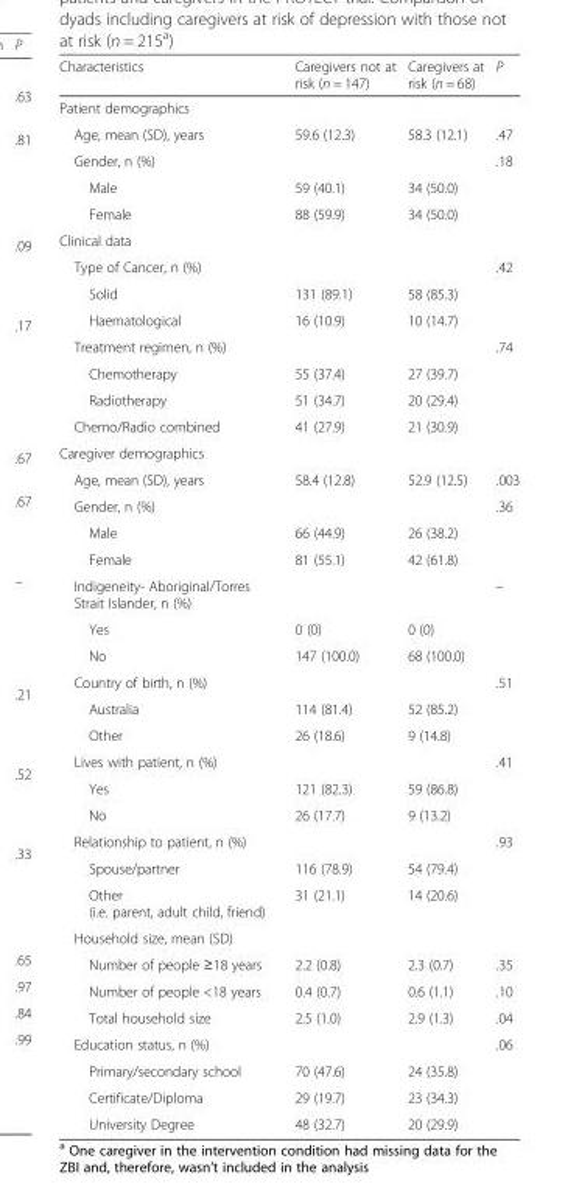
<table><thead><tr><td>Characteristics</td><td>Caregivers not at risk (n = 147)</td><td>Caregivers at risk (n = 68)</td><td>P</td></tr></thead><tbody><tr><td colspan="4">Patient demographics</td></tr><tr><td>Age, mean (SD), years</td><td>59.6 (12.3)</td><td>58.3 (12.1)</td><td>.47</td></tr><tr><td>Gender, n (%)</td><td></td><td></td><td>.18</td></tr><tr><td>Male</td><td>59 (40.1)</td><td>34 (50.0)</td><td></td></tr><tr><td>Female</td><td>88 (59.9)</td><td>34 (50.0)</td><td></td></tr><tr><td colspan="4">Clinical data</td></tr><tr><td>Type of Cancer, n (%)</td><td></td><td></td><td>.42</td></tr><tr><td>Solid</td><td>131 (89.1)</td><td>58 (85.3)</td><td></td></tr><tr><td>Haematological</td><td>16 (10.9)</td><td>10 (14.7)</td><td></td></tr><tr><td>Treatment regimen, n (%)</td><td></td><td></td><td>.74</td></tr><tr><td>Chemotherapy</td><td>55 (37.4)</td><td>27 (39.7)</td><td></td></tr><tr><td>Radiotherapy</td><td>51 (34.7)</td><td>20 (29.4)</td><td></td></tr><tr><td>Chemo/Radio combined</td><td>41 (27.9)</td><td>21 (30.9)</td><td></td></tr><tr><td colspan="4">Caregiver demographics</td></tr><tr><td>Age, mean (SD), years</td><td>58.4 (12.8)</td><td>52.9 (12.5)</td><td>.003</td></tr><tr><td>Gender, n (%)</td><td></td><td></td><td>.36</td></tr><tr><td>Male</td><td>66 (44.9)</td><td>26 (38.2)</td><td></td></tr><tr><td>Female</td><td>81 (55.1)</td><td>42 (61.8)</td><td></td></tr><tr><td>Indigeneity- Aboriginal/Torres Strait Islander, n (%)</td><td></td><td></td><td>–</td></tr><tr><td>Yes</td><td>0 (0)</td><td>0 (0)</td><td></td></tr><tr><td>No</td><td>147 (100.0)</td><td>68 (100.0)</td><td></td></tr><tr><td>Country of birth, n (%)</td><td></td><td></td><td>.51</td></tr><tr><td>Australia</td><td>114 (81.4)</td><td>52 (85.2)</td><td></td></tr><tr><td>Other</td><td>26 (18.6)</td><td>9 (14.8)</td><td></td></tr><tr><td>Lives with patient, n (%)</td><td></td><td></td><td>.41</td></tr><tr><td>Yes</td><td>121 (82.3)</td><td>59 (86.8)</td><td></td></tr><tr><td>No</td><td>26 (17.7)</td><td>9 (13.2)</td><td></td></tr><tr><td>Relationship to patient, n (%)</td><td></td><td></td><td>.93</td></tr><tr><td>Spouse/partner</td><td>116 (78.9)</td><td>54 (79.4)</td><td></td></tr><tr><td>Other (i.e. parent, adult child, friend)</td><td>31 (21.1)</td><td>14 (20.6)</td><td></td></tr><tr><td colspan="4">Household size, mean (SD)</td></tr><tr><td>Number of people ≥18 years</td><td>2.2 (0.8)</td><td>2.3 (0.7)</td><td>.35</td></tr><tr><td>Number of people &lt;18 years</td><td>0.4 (0.7)</td><td>0.6 (1.1)</td><td>.10</td></tr><tr><td>Total household size</td><td>2.5 (1.0)</td><td>2.9 (1.3)</td><td>.04</td></tr><tr><td>Education status, n (%)</td><td></td><td></td><td>.06</td></tr><tr><td>Primary/secondary school</td><td>70 (47.6)</td><td>24 (35.8)</td><td></td></tr><tr><td>Certificate/Diploma</td><td>29 (19.7)</td><td>23 (34.3)</td><td></td></tr><tr><td>University Degree</td><td>48 (32.7)</td><td>20 (29.9)</td><td></td></tr></tbody></table>